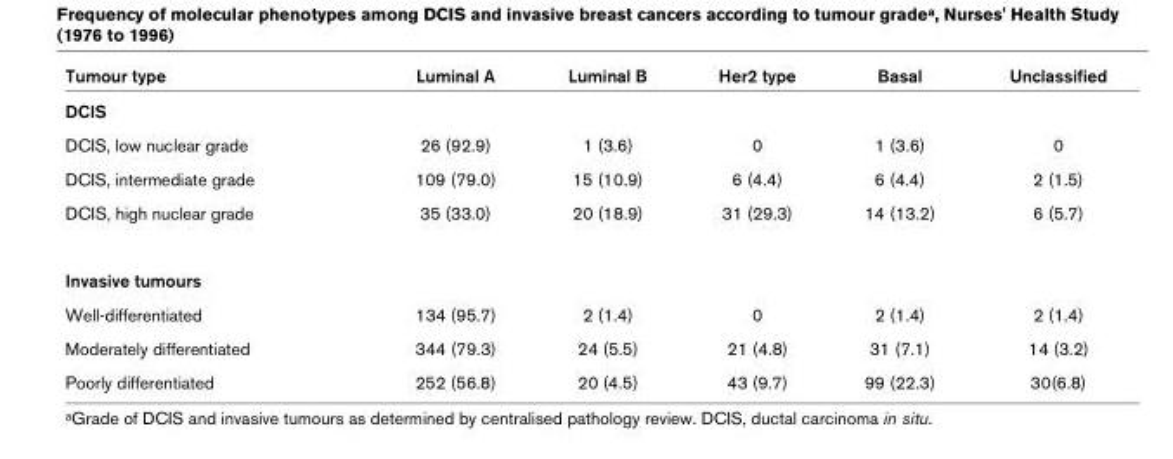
<table><thead><tr><td>Tumour type</td><td>Luminal A</td><td>Luminal B</td><td>Her2 type</td><td>Basal</td><td>Unclassified</td></tr></thead><tbody><tr><td colspan="6">DCIS</td></tr><tr><td>DCIS, low nuclear grade</td><td>26 (92.9)</td><td>1 (3.6)</td><td>0</td><td>1 (3.6)</td><td>0</td></tr><tr><td>DCIS, intermediate grade</td><td>109 (79.0)</td><td>15 (10.9)</td><td>6 (4.4)</td><td>6 (4.4)</td><td>2 (1.5)</td></tr><tr><td>DCIS, high nuclear grade</td><td>35 (33.0)</td><td>20 (18.9)</td><td>31 (29.3)</td><td>14 (13.2)</td><td>6 (5.7)</td></tr><tr><td colspan="6">Invasive tumours</td></tr><tr><td>Well-differentiated</td><td>134 (95.7)</td><td>2 (1.4)</td><td>0</td><td>2 (1.4)</td><td>2 (1.4)</td></tr><tr><td>Moderately differentiated</td><td>344 (79.3)</td><td>24 (5.5)</td><td>21 (4.8)</td><td>31 (7.1)</td><td>14 (3.2)</td></tr><tr><td>Poorly differentiated</td><td>252 (56.8)</td><td>20 (4.5)</td><td>43 (9.7)</td><td>99 (22.3)</td><td>30(6.8)</td></tr></tbody></table>